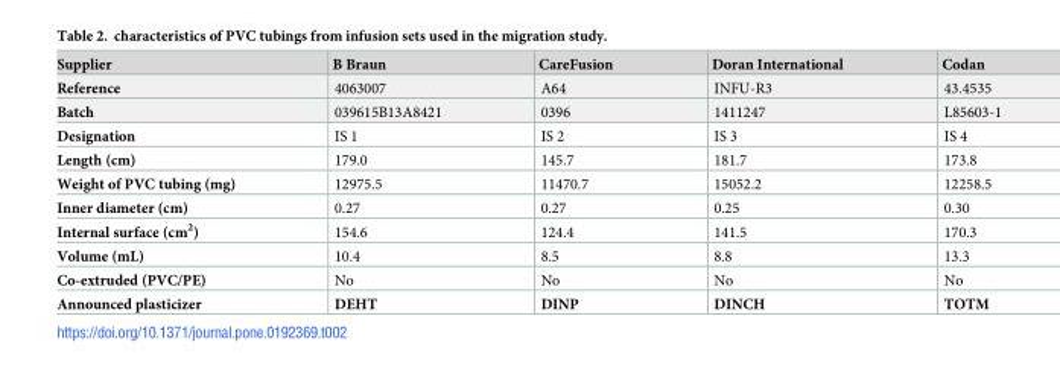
<table><thead><tr><td>Supplier</td><td>B Braun</td><td>CareFusion</td><td>Doran International</td><td>Codan</td></tr></thead><tbody><tr><td>Reference</td><td>4063007</td><td>A64</td><td>INFU-R3</td><td>43.4535</td></tr><tr><td>Batch</td><td>039615B13A8421</td><td>0396</td><td>1411247</td><td>L85603-1</td></tr><tr><td>Designation</td><td>IS 1</td><td>IS 2</td><td>IS 3</td><td>IS 4</td></tr><tr><td>Length (cm)</td><td>179.0</td><td>145.7</td><td>181.7</td><td>173.8</td></tr><tr><td>Weight of PVC tubing (mg)</td><td>12975.5</td><td>11470.7</td><td>15052.2</td><td>12258.5</td></tr><tr><td>Inner diameter (cm)</td><td>0.27</td><td>0.27</td><td>0.25</td><td>0.30</td></tr><tr><td>Internal surface (cm<sup>2</sup>)</td><td>154.6</td><td>124.4</td><td>141.5</td><td>170.3</td></tr><tr><td>Volume (mL)</td><td>10.4</td><td>8.5</td><td>8.8</td><td>13.3</td></tr><tr><td>Co-extruded (PVC/PE)</td><td>No</td><td>No</td><td>No</td><td>No</td></tr><tr><td>Announced plasticizer</td><td>DEHT</td><td>DINP</td><td>DINCH</td><td>TOTM</td></tr></tbody></table>